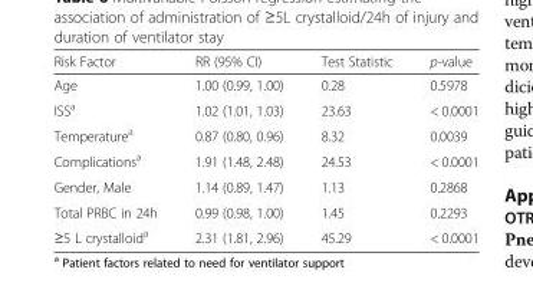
<table><thead><tr><td>Risk Factor</td><td>RR (95% CI)</td><td>Test Statistic</td><td>p-value</td></tr></thead><tbody><tr><td>Age</td><td>1.00 (0.99, 1.00)</td><td>0.28</td><td>0.5978</td></tr><tr><td>ISS<sup>a</sup></td><td>1.02 (1.01, 1.03)</td><td>23.63</td><td>&lt; 0.0001</td></tr><tr><td>Temperature<sup>a</sup></td><td>0.87 (0.80, 0.96)</td><td>8.32</td><td>0.0039</td></tr><tr><td>Complications<sup>a</sup></td><td>1.91 (1.48, 2.48)</td><td>24.53</td><td>&lt; 0.0001</td></tr><tr><td>Gender, Male</td><td>1.14 (0.89, 1.47)</td><td>1.13</td><td>0.2868</td></tr><tr><td>Total PRBC in 24h</td><td>0.99 (0.98, 1.00)</td><td>1.45</td><td>0.2293</td></tr><tr><td>≥5 L crystalloid<sup>a</sup></td><td>2.31 (1.81, 2.96)</td><td>45.29</td><td>&lt; 0.0001</td></tr></tbody></table>